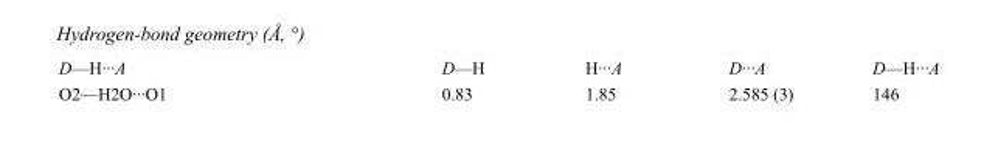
<table><tbody><tr><td>D—H···A</td><td>D—H</td><td>H···A</td><td>D···A</td><td>D—H···A</td></tr><tr><td>O2—H2O···O1</td><td>0.83</td><td>1.85</td><td>2.585 (3)</td><td>146</td></tr></tbody></table>